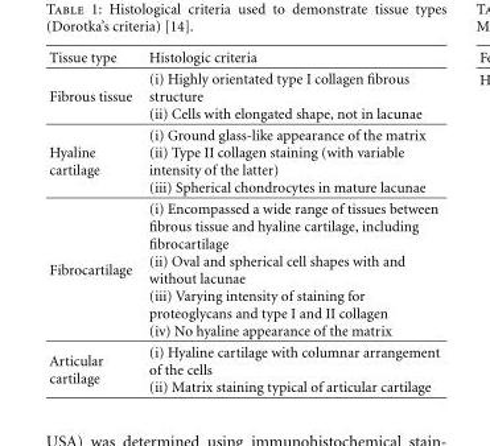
<table><thead><tr><td>Tissue type</td><td>Histologic criteria</td></tr></thead><tbody><tr><td>Fibrous tissue</td><td>(i) Highly orientated type I collagen fibrous structure (ii) Cells with elongated shape, not in lacunae</td></tr><tr><td>Hyaline cartilage</td><td>(i) Ground glass-like appearance of the matrix (ii) Type II collagen staining (with variable intensity of the latter) (iii) Spherical chondrocytes in mature lacunae</td></tr><tr><td>Fibrocartilage</td><td>(i) Encompassed a wide range of tissues between fibrous tissue and hyaline cartilage, including fibrocartilage (ii) Oval and spherical cell shapes with and without lacunae (iii) Varying intensity of staining for proteoglycans and type I and II collagen (iv) No hyaline appearance of the matrix</td></tr><tr><td>Articular cartilage</td><td>(i) Hyaline cartilage with columnar arrangement of the cells (ii) Matrix staining typical of articular cartilage</td></tr></tbody></table>